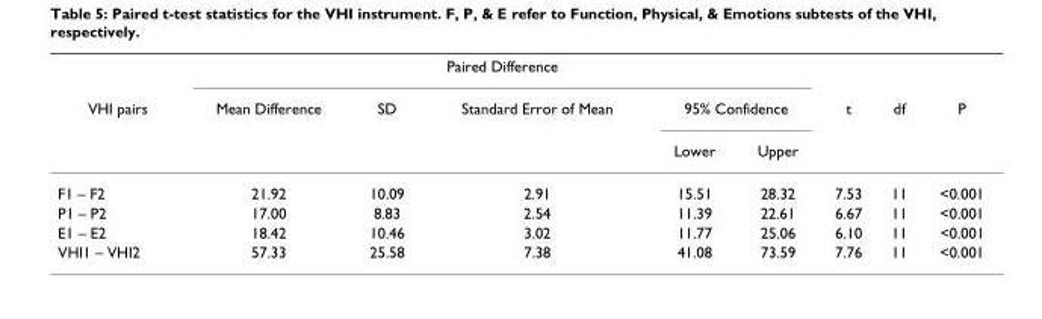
<table><thead><tr><td rowspan="3">VHI pairs</td><td colspan="5">Paired Difference</td><td rowspan="3">t</td><td rowspan="3">df</td><td rowspan="3">P</td></tr><tr><td rowspan="2">Mean Difference</td><td rowspan="2">SD</td><td rowspan="2">Standard Error of Mean</td><td colspan="2">95% Confidence</td></tr><tr><td>Lower</td><td>Upper</td></tr></thead><tbody><tr><td>F1 – F2</td><td>21.92</td><td>10.09</td><td>2.91</td><td>15.51</td><td>28.32</td><td>7.53</td><td>11</td><td>&lt;0.001</td></tr><tr><td>P1 – P2</td><td>17.00</td><td>8.83</td><td>2.54</td><td>11.39</td><td>22.61</td><td>6.67</td><td>11</td><td>&lt;0.001</td></tr><tr><td>E1 – E2</td><td>18.42</td><td>10.46</td><td>3.02</td><td>11.77</td><td>25.06</td><td>6.10</td><td>11</td><td>&lt;0.001</td></tr><tr><td>VHI1 – VHI2</td><td>57.33</td><td>25.58</td><td>7.38</td><td>41.08</td><td>73.59</td><td>7.76</td><td>11</td><td>&lt;0.001</td></tr></tbody></table>